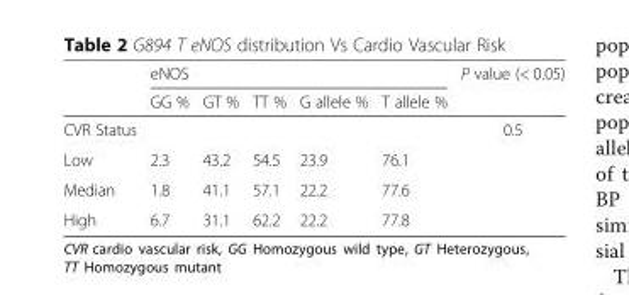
<table><thead><tr><td rowspan="2"></td><td colspan="5">eNOS</td><td rowspan="2">P value (&lt; 0.05)</td></tr><tr><td>GG %</td><td>GT %</td><td>TT %</td><td>G allele %</td><td>T allele %</td></tr></thead><tbody><tr><td>CVR Status</td><td></td><td></td><td></td><td></td><td></td><td>0.5</td></tr><tr><td>Low</td><td>2.3</td><td>43.2</td><td>54.5</td><td>23.9</td><td>76.1</td><td></td></tr><tr><td>Median</td><td>1.8</td><td>41.1</td><td>57.1</td><td>22.2</td><td>77.6</td><td></td></tr><tr><td>High</td><td>6.7</td><td>31.1</td><td>62.2</td><td>22.2</td><td>77.8</td><td></td></tr></tbody></table>